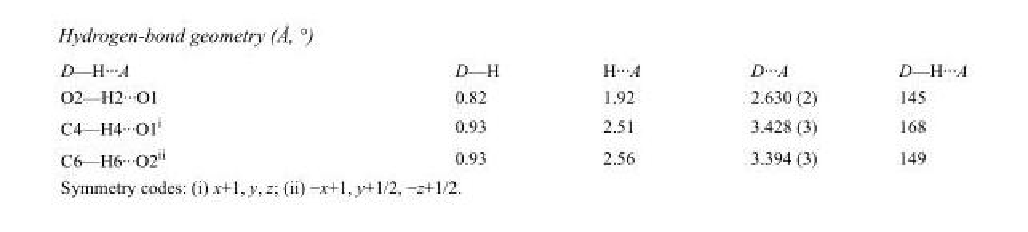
<table><tbody><tr><td>D—H···A</td><td>D—H</td><td>H···A</td><td>D···A</td><td>D—H···A</td></tr><tr><td>O2—H2···O1</td><td>0.82</td><td>1.92</td><td>2.630 (2)</td><td>145</td></tr><tr><td>C4—H4···O1<sup>i</sup></td><td>0.93</td><td>2.51</td><td>3.428 (3)</td><td>168</td></tr><tr><td>C6—H6···O2<sup>ii</sup></td><td>0.93</td><td>2.56</td><td>3.394 (3)</td><td>149</td></tr></tbody></table>